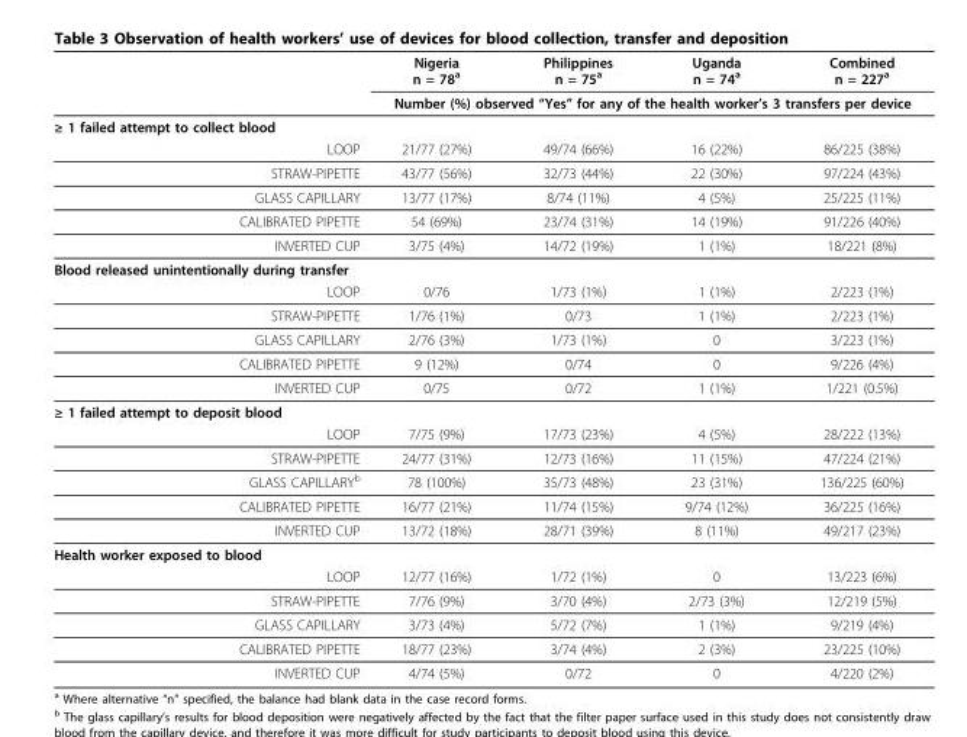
<table><thead><tr><td rowspan="2"></td><td>Nigeria n = 78<sup>a</sup></td><td>Philippines n = 75<sup>a</sup></td><td>Uganda n = 74<sup>a</sup></td><td>Combined n = 227<sup>a</sup></td></tr><tr><td colspan="4">Number (%) observed “Yes” for any of the health worker’s 3 transfers per device</td></tr></thead><tbody><tr><td colspan="5">≥ 1 failed attempt to collect blood</td></tr><tr><td>LOOP</td><td>21/77 (27%)</td><td>49/74 (66%)</td><td>16 (22%)</td><td>86/225 (38%)</td></tr><tr><td>STRAW-PIPETTE</td><td>43/77 (56%)</td><td>32/73 (44%)</td><td>22 (30%)</td><td>97/224 (43%)</td></tr><tr><td>GLASS CAPILLARY</td><td>13/77 (17%)</td><td>8/74 (11%)</td><td>4 (5%)</td><td>25/225 (11%)</td></tr><tr><td>CALIBRATED PIPETTE</td><td>54 (69%)</td><td>23/74 (31%)</td><td>14 (19%)</td><td>91/226 (40%)</td></tr><tr><td>INVERTED CUP</td><td>3/75 (4%)</td><td>14/72 (19%)</td><td>1 (1%)</td><td>18/221 (8%)</td></tr><tr><td colspan="5">Blood released unintentionally during transfer</td></tr><tr><td>LOOP</td><td>0/76</td><td>1/73 (1%)</td><td>1 (1%)</td><td>2/223 (1%)</td></tr><tr><td>STRAW-PIPETTE</td><td>1/76 (1%)</td><td>0/73</td><td>1 (1%)</td><td>2/223 (1%)</td></tr><tr><td>GLASS CAPILLARY</td><td>2/76 (3%)</td><td>1/73 (1%)</td><td>0</td><td>3/223 (1%)</td></tr><tr><td>CALIBRATED PIPETTE</td><td>9 (12%)</td><td>0/74</td><td>0</td><td>9/226 (4%)</td></tr><tr><td>INVERTED CUP</td><td>0/75</td><td>0/72</td><td>1 (1%)</td><td>1/221 (0.5%)</td></tr><tr><td colspan="5">≥ 1 failed attempt to deposit blood</td></tr><tr><td>LOOP</td><td>7/75 (9%)</td><td>17/73 (23%)</td><td>4 (5%)</td><td>28/222 (13%)</td></tr><tr><td>STRAW-PIPETTE</td><td>24/77 (31%)</td><td>12/73 (16%)</td><td>11 (15%)</td><td>47/224 (21%)</td></tr><tr><td>GLASS CAPILLARY<sup>b</sup></td><td>78 (100%)</td><td>35/73 (48%)</td><td>23 (31%)</td><td>136/225 (60%)</td></tr><tr><td>CALIBRATED PIPETTE</td><td>16/77 (21%)</td><td>11/74 (15%)</td><td>9/74 (12%)</td><td>36/225 (16%)</td></tr><tr><td>INVERTED CUP</td><td>13/72 (18%)</td><td>28/71 (39%)</td><td>8 (11%)</td><td>49/217 (23%)</td></tr><tr><td colspan="5">Health worker exposed to blood</td></tr><tr><td>LOOP</td><td>12/77 (16%)</td><td>1/72 (1%)</td><td>0</td><td>13/223 (6%)</td></tr><tr><td>STRAW-PIPETTE</td><td>7/76 (9%)</td><td>3/70 (4%)</td><td>2/73 (3%)</td><td>12/219 (5%)</td></tr><tr><td>GLASS CAPILLARY</td><td>3/73 (4%)</td><td>5/72 (7%)</td><td>1 (1%)</td><td>9/219 (4%)</td></tr><tr><td>CALIBRATED PIPETTE</td><td>18/77 (23%)</td><td>3/74 (4%)</td><td>2 (3%)</td><td>23/225 (10%)</td></tr><tr><td>INVERTED CUP</td><td>4/74 (5%)</td><td>0/72</td><td>0</td><td>4/220 (2%)</td></tr></tbody></table>